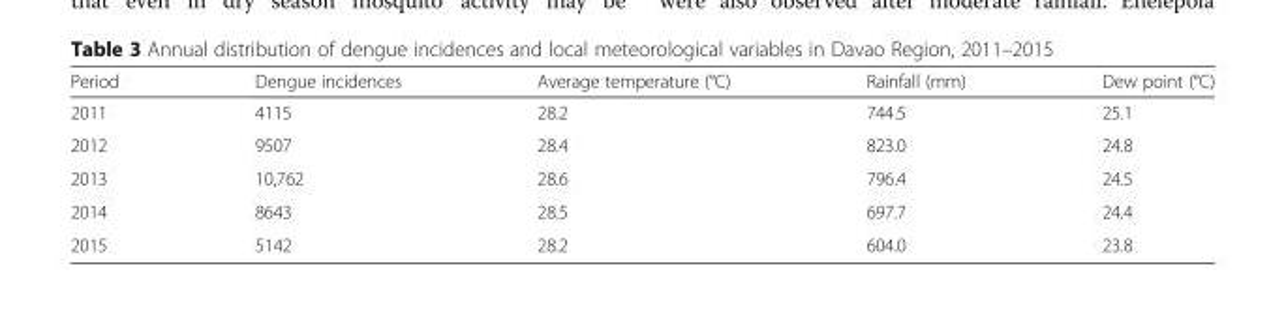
<table><thead><tr><td>Period</td><td>Dengue incidences</td><td>Average temperature (°C)</td><td>Rainfall (mm)</td><td>Dew point (°C)</td></tr></thead><tbody><tr><td>2011</td><td>4115</td><td>28.2</td><td>744.5</td><td>25.1</td></tr><tr><td>2012</td><td>9507</td><td>28.4</td><td>823.0</td><td>24.8</td></tr><tr><td>2013</td><td>10,762</td><td>28.6</td><td>796.4</td><td>24.5</td></tr><tr><td>2014</td><td>8643</td><td>28.5</td><td>697.7</td><td>24.4</td></tr><tr><td>2015</td><td>5142</td><td>28.2</td><td>604.0</td><td>23.8</td></tr></tbody></table>